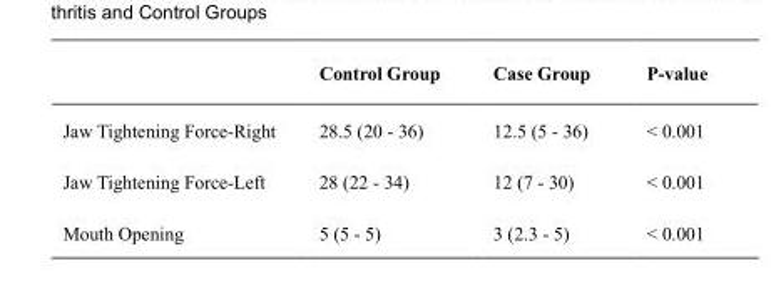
<table><thead><tr><td></td><td>Control Group</td><td>Case Group</td><td>P-value</td></tr></thead><tbody><tr><td>Jaw Tightening Force-Right</td><td>28.5 (20 - 36)</td><td>12.5 (5 - 36)</td><td>&lt; 0.001</td></tr><tr><td>Jaw Tightening Force-Left</td><td>28 (22 - 34)</td><td>12 (7 - 30)</td><td>&lt; 0.001</td></tr><tr><td>Mouth Opening</td><td>5 (5 - 5)</td><td>3 (2.3 - 5)</td><td>&lt; 0.001</td></tr></tbody></table>